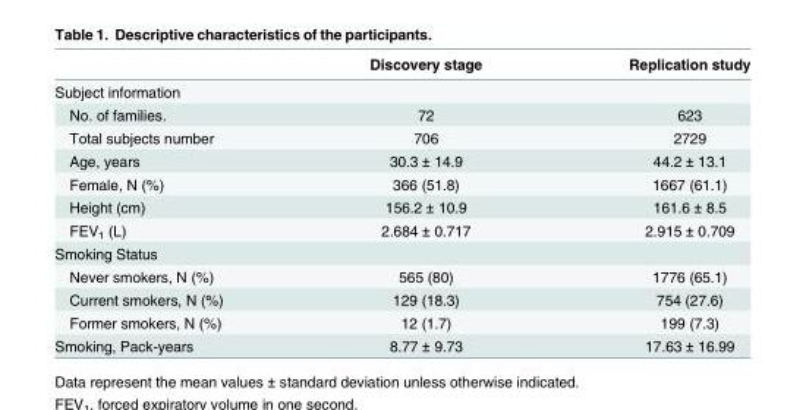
<table><thead><tr><td></td><td>Discovery stage</td><td>Replication study</td></tr></thead><tbody><tr><td colspan="3">Subject information</td></tr><tr><td>No. of families.</td><td>72</td><td>623</td></tr><tr><td>Total subjects number</td><td>706</td><td>2729</td></tr><tr><td>Age, years</td><td>30.3 ± 14.9</td><td>44.2 ± 13.1</td></tr><tr><td>Female, N (%)</td><td>366 (51.8)</td><td>1667 (61.1)</td></tr><tr><td>Height (cm)</td><td>156.2 ± 10.9</td><td>161.6 ± 8.5</td></tr><tr><td>FEV<sub>1</sub> (L)</td><td>2.684 ± 0.717</td><td>2.915 ± 0.709</td></tr><tr><td colspan="3">Smoking Status</td></tr><tr><td>Never smokers, N (%)</td><td>565 (80)</td><td>1776 (65.1)</td></tr><tr><td>Current smokers, N (%)</td><td>129 (18.3)</td><td>754 (27.6)</td></tr><tr><td>Former smokers, N (%)</td><td>12 (1.7)</td><td>199 (7.3)</td></tr><tr><td>Smoking, Pack-years</td><td>8.77 ± 9.73</td><td>17.63 ± 16.99</td></tr></tbody></table>